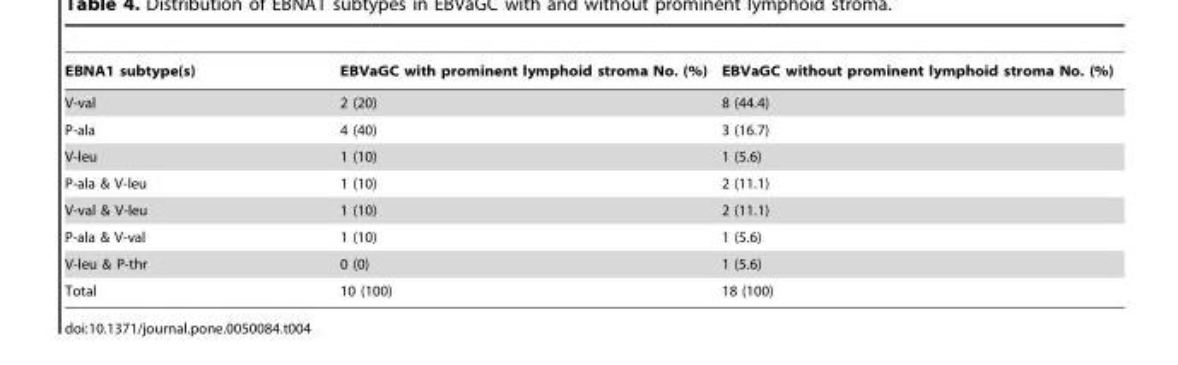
<table><thead><tr><td>EBNA1 subtype(s)</td><td>EBVaGC with prominent lymphoid stroma No. (%)</td><td>EBVaGC without prominent lymphoid stroma No. (%)</td></tr></thead><tbody><tr><td>V-val</td><td>2 (20)</td><td>8 (44.4)</td></tr><tr><td>P-ala</td><td>4 (40)</td><td>3 (16.7)</td></tr><tr><td>V-leu</td><td>1 (10)</td><td>1 (5.6)</td></tr><tr><td>P-ala &amp; V-leu</td><td>1 (10)</td><td>2 (11.1)</td></tr><tr><td>V-val &amp; V-leu</td><td>1 (10)</td><td>2 (11.1)</td></tr><tr><td>P-ala &amp; V-val</td><td>1 (10)</td><td>1 (5.6)</td></tr><tr><td>V-leu &amp; P-thr</td><td>0 (0)</td><td>1 (5.6)</td></tr><tr><td>Total</td><td>10 (100)</td><td>18 (100)</td></tr></tbody></table>